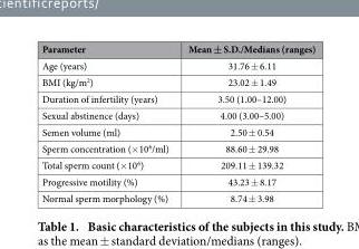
<table><thead><tr><td>Parameter</td><td>Mean ± S.D./Medians (ranges)</td></tr></thead><tbody><tr><td>Age (years)</td><td>31.76 ± 6.11</td></tr><tr><td>BMI (kg/m<sup>2</sup>)</td><td>23.02 ± 1.49</td></tr><tr><td>Duration of infertility (years)</td><td>3.50 (1.00–12.00)</td></tr><tr><td>Sexual abstinence (days)</td><td>4.00 (3.00–5.00)</td></tr><tr><td>Semen volume (ml)</td><td>2.50 ± 0.54</td></tr><tr><td>Sperm concentration (× 10<sup>6</sup>/ml)</td><td>88.60 ± 29.98</td></tr><tr><td>Total sperm count (× 10<sup>6</sup>)</td><td>209.11 ± 139.32</td></tr><tr><td>Progressive motility (%)</td><td>43.23 ± 8.17</td></tr><tr><td>Normal sperm morphology (%)</td><td>8.74 ± 3.98</td></tr></tbody></table>